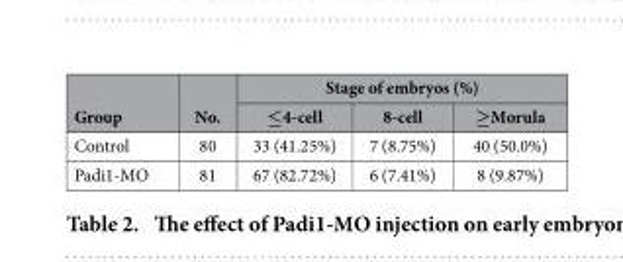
<table><thead><tr><td rowspan="2">Group</td><td rowspan="2">No.</td><td colspan="3">Stage of embryos (%)</td></tr><tr><td>≤4-cell</td><td>8-cell</td><td>≥Morula</td></tr></thead><tbody><tr><td>Control</td><td>80</td><td>33 (41.25%)</td><td>7 (8.75%)</td><td>40 (50.0%)</td></tr><tr><td>Padi1-MO</td><td>81</td><td>67 (82.72%)</td><td>6 (7.41%)</td><td>8 (9.87%)</td></tr></tbody></table>